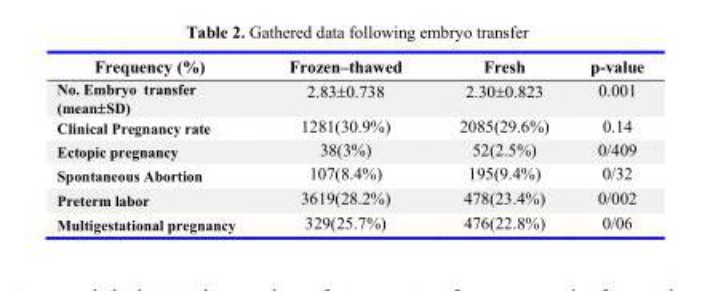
<table><thead><tr><td>Frequency (%)</td><td>Frozen–thawed</td><td>Fresh</td><td>p-value</td></tr></thead><tbody><tr><td>No. Embryo transfer (mean±SD)</td><td>2.83±0.738</td><td>2.30±0.823</td><td>0.001</td></tr><tr><td>Clinical Pregnancy rate</td><td>1281(30.9%)</td><td>2085(29.6%)</td><td>0.14</td></tr><tr><td>Ectopic pregnancy</td><td>38(3%)</td><td>52(2.5%)</td><td>0/409</td></tr><tr><td>Spontaneous Abortion</td><td>107(8.4%)</td><td>195(9.4%)</td><td>0/32</td></tr><tr><td>Preterm labor</td><td>3619(28.2%)</td><td>478(23.4%)</td><td>0/002</td></tr><tr><td>Multigestational pregnancy</td><td>329(25.7%)</td><td>476(22.8%)</td><td>0/06</td></tr></tbody></table>